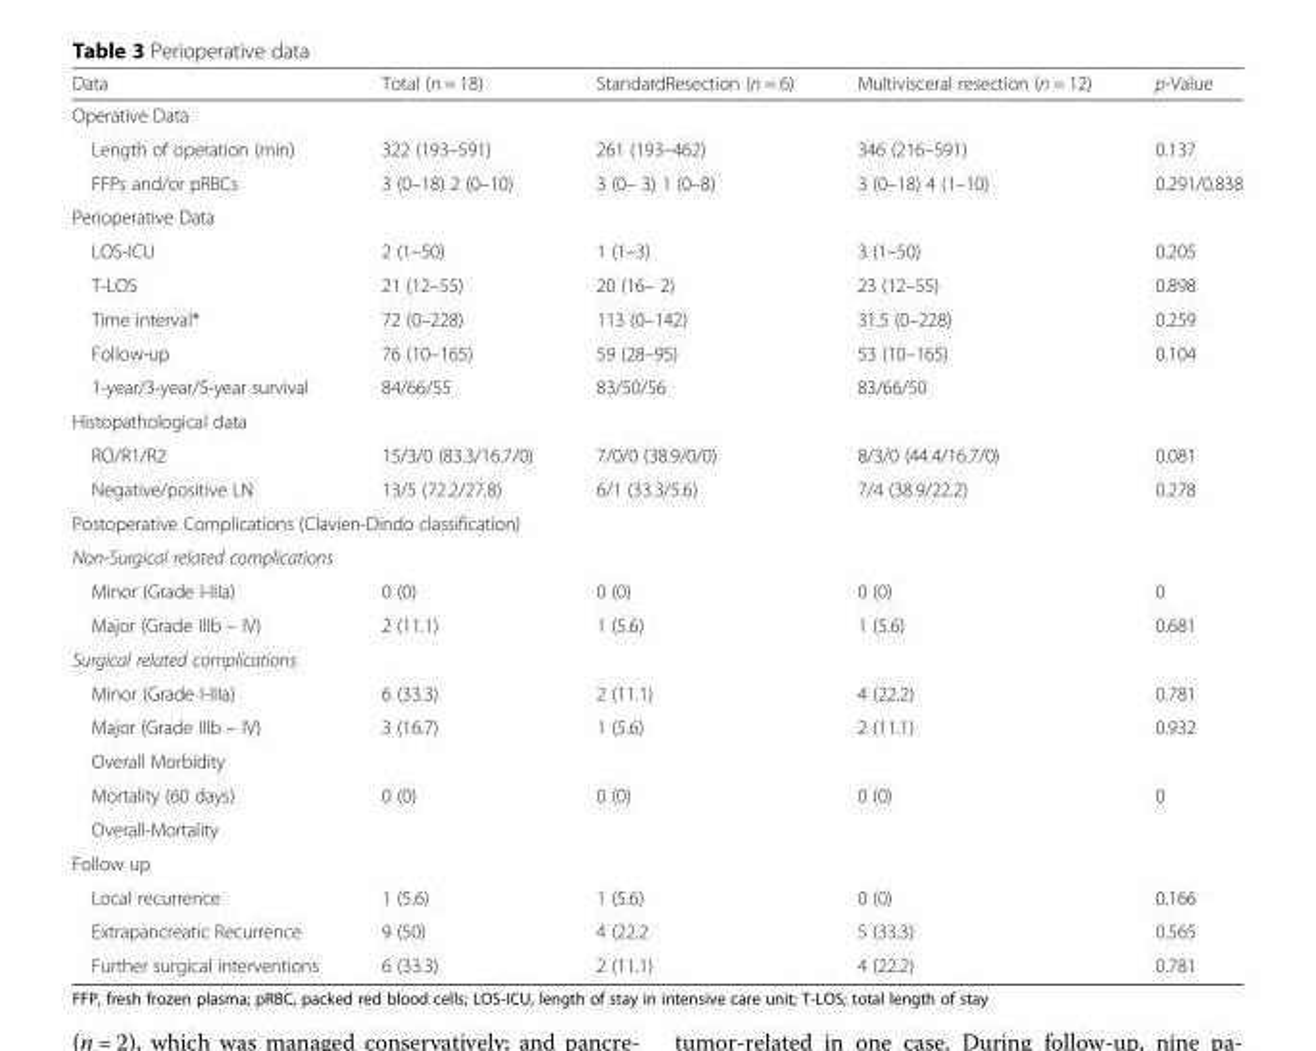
<table><thead><tr><td>Data</td><td>Total (n = 18)</td><td>StandardResection (n = 6)</td><td>Multivisceral resection (n = 12)</td><td>p-Value</td></tr></thead><tbody><tr><td colspan="5">Operative Data</td></tr><tr><td>Length of operation (min)</td><td>322 (193–591)</td><td>261 (193–462)</td><td>346 (216–591)</td><td>0.137</td></tr><tr><td>FFPs and/or pRBCs</td><td>3 (0–18) 2 (0–10)</td><td>3 (0– 3) 1 (0–8)</td><td>3 (0–18) 4 (1–10)</td><td>0.291/0.838</td></tr><tr><td colspan="5">Perioperative Data</td></tr><tr><td>LOS-ICU</td><td>2 (1–50)</td><td>1 (1–3)</td><td>3 (1–50)</td><td>0.205</td></tr><tr><td>T-LOS</td><td>21 (12–55)</td><td>20 (16– 2)</td><td>23 (12–55)</td><td>0.898</td></tr><tr><td>Time interval*</td><td>72 (0–228)</td><td>113 (0–142)</td><td>31.5 (0–228)</td><td>0.259</td></tr><tr><td>Follow-up</td><td>76 (10–165)</td><td>59 (28–95)</td><td>53 (10–165)</td><td>0.104</td></tr><tr><td>1-year/3-year/5-year survival</td><td>84/66/55</td><td>83/50/56</td><td>83/66/50</td><td></td></tr><tr><td colspan="5">Histopathological data</td></tr><tr><td>RO/R1/R2</td><td>15/3/0 (83.3/16.7/0)</td><td>7/0/0 (38.9/0/0)</td><td>8/3/0 (44.4/16.7/0)</td><td>0.081</td></tr><tr><td>Negative/positive LN</td><td>13/5 (72.2/27.8)</td><td>6/1 (33.3/5.6)</td><td>7/4 (38.9/22.2)</td><td>0.278</td></tr><tr><td colspan="5">Postoperative Complications (Clavien-Dindo classification)</td></tr><tr><td colspan="5">Non-Surgical related complications</td></tr><tr><td>Minor (Grade I-IIIa)</td><td>0 (0)</td><td>0 (0)</td><td>0 (0)</td><td>0</td></tr><tr><td>Major (Grade IIIb – IV)</td><td>2 (11.1)</td><td>1 (5.6)</td><td>1 (5.6)</td><td>0.681</td></tr><tr><td colspan="5">Surgical related complications</td></tr><tr><td>Minor (Grade I-IIIa)</td><td>6 (33.3)</td><td>2 (11.1)</td><td>4 (22.2)</td><td>0.781</td></tr><tr><td>Major (Grade IIIb – IV)</td><td>3 (16.7)</td><td>1 (5.6)</td><td>2 (11.1)</td><td>0.932</td></tr><tr><td colspan="5">Overall Morbidity</td></tr><tr><td>Mortality (60 days)</td><td>0 (0)</td><td>0 (0)</td><td>0 (0)</td><td>0</td></tr><tr><td colspan="5">Overall-Mortality</td></tr><tr><td colspan="5">Follow up</td></tr><tr><td>Local recurrence</td><td>1 (5.6)</td><td>1 (5.6)</td><td>0 (0)</td><td>0.166</td></tr><tr><td>Extrapancreatic Recurrence</td><td>9 (50)</td><td>4 (22.2</td><td>5 (33.3)</td><td>0.565</td></tr><tr><td>Further surgical interventions</td><td>6 (33.3)</td><td>2 (11.1)</td><td>4 (22.2)</td><td>0.781</td></tr></tbody></table>